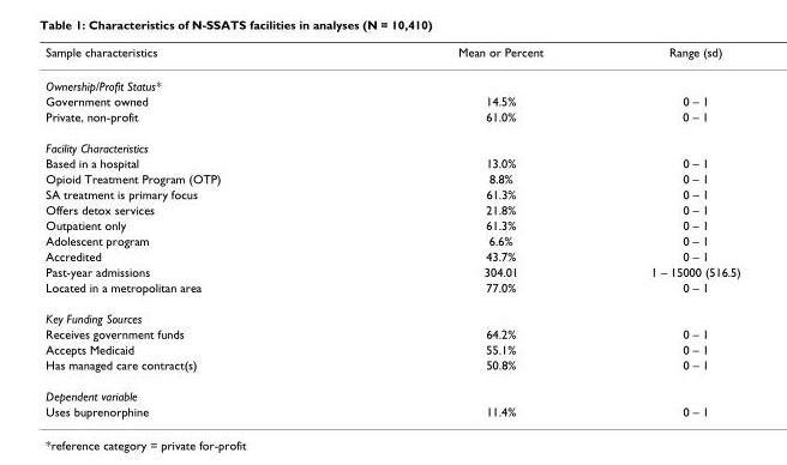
<table><thead><tr><td>Sample characteristics</td><td>Mean or Percent</td><td>Range (sd)</td></tr></thead><tbody><tr><td colspan="3">Ownership/Profit Status*</td></tr><tr><td>Government owned</td><td>14.5%</td><td>0 – 1</td></tr><tr><td>Private, non-profit</td><td>61.0%</td><td>0 – 1</td></tr><tr><td colspan="3">Facility Characteristics</td></tr><tr><td>Based in a hospital</td><td>13.0%</td><td>0 – 1</td></tr><tr><td>Opioid Treatment Program (OTP)</td><td>8.8%</td><td>0 – 1</td></tr><tr><td>SA treatment is primary focus</td><td>61.3%</td><td>0 – 1</td></tr><tr><td>Offers detox services</td><td>21.8%</td><td>0 – 1</td></tr><tr><td>Outpatient only</td><td>61.3%</td><td>0 – 1</td></tr><tr><td>Adolescent program</td><td>6.6%</td><td>0 – 1</td></tr><tr><td>Accredited</td><td>43.7%</td><td>0 – 1</td></tr><tr><td>Past-year admissions</td><td>304.01</td><td>1 – 15000 (516.5)</td></tr><tr><td>Located in a metropolitan area</td><td>77.0%</td><td>0 – 1</td></tr><tr><td colspan="3">Key Funding Sources</td></tr><tr><td>Receives government funds</td><td>64.2%</td><td>0 – 1</td></tr><tr><td>Accepts Medicaid</td><td>55.1%</td><td>0 – 1</td></tr><tr><td>Has managed care contract(s)</td><td>50.8%</td><td>0 – 1</td></tr><tr><td colspan="3">Dependent variable</td></tr><tr><td>Uses buprenorphine</td><td>11.4%</td><td>0 – 1</td></tr></tbody></table>